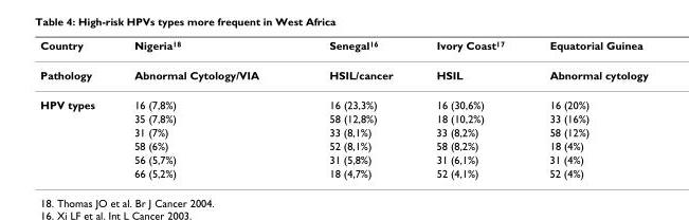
<table><thead><tr><td>Country</td><td>Nigeria<sup>18</sup></td><td>Senegal<sup>16</sup></td><td>Ivory Coast<sup>17</sup></td><td>Equatorial Guinea</td></tr></thead><tbody><tr><td>Pathology</td><td>Abnormal Cytology/VIA</td><td>HSIL/cancer</td><td>HSIL</td><td>Abnormal cytology</td></tr><tr><td rowspan="6">HPV types</td><td>16 (7,8%)</td><td>16 (23,3%)</td><td>16 (30,6%)</td><td>16 (20%)</td></tr><tr><td>35 (7,8%)</td><td>58 (12,8%)</td><td>18 (10,2%)</td><td>33 (16%)</td></tr><tr><td>31 (7%)</td><td>33 (8,1%)</td><td>33 (8,2%)</td><td>58 (12%)</td></tr><tr><td>58 (6%)</td><td>52 (8,1%)</td><td>58 (8,2%)</td><td>18 (4%)</td></tr><tr><td>56 (5,7%)</td><td>31 (5,8%)</td><td>31 (6,1%)</td><td>31 (4%)</td></tr><tr><td>66 (5,2%)</td><td>18 (4,7%)</td><td>52 (4,1%)</td><td>52 (4%)</td></tr></tbody></table>